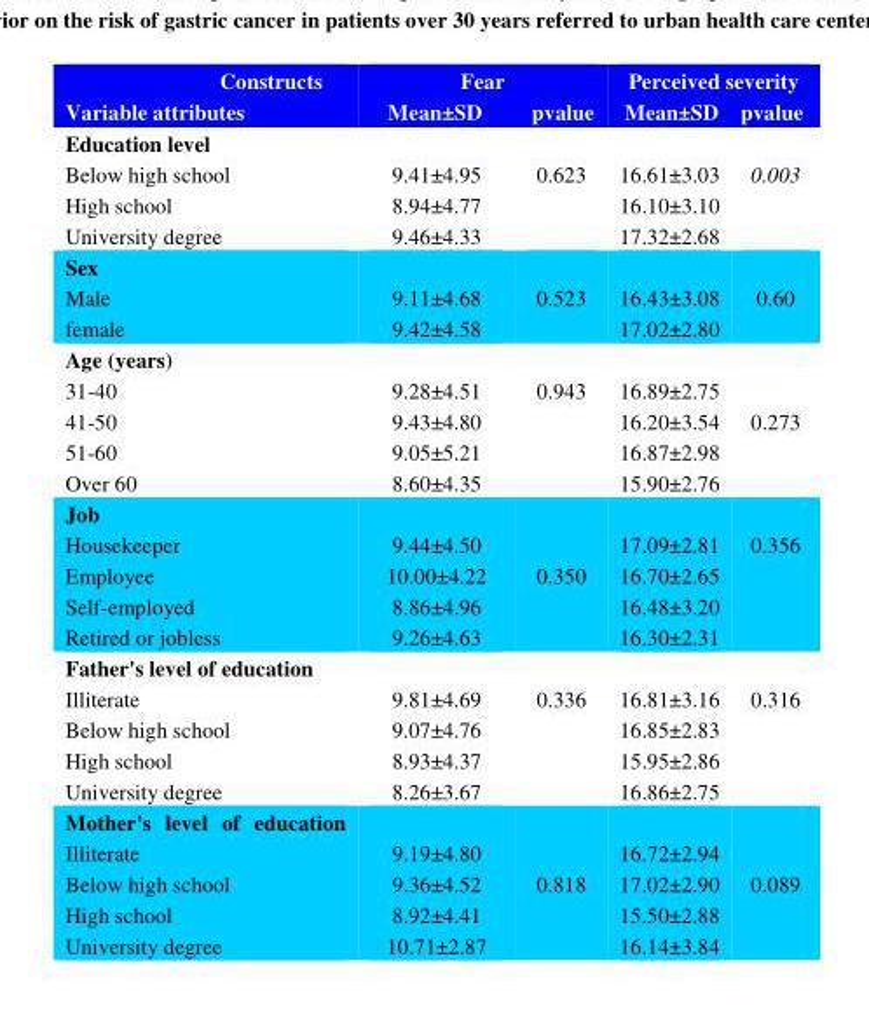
<table><thead><tr><td rowspan="2">Constructs Variable attributes Education level Below high school High school University degree</td><td colspan="2">Fear Mean±SD pvalue</td><td colspan="2">Perceived severity Mean±SD pvalue</td></tr><tr><td>9.41±4.95 8.94±4.77 9.46±4.33</td><td>0.623</td><td>16.61±3.03 16.10±3.10 17.32±2.68</td><td>0.003</td></tr></thead><tbody><tr><td>Sex Male female</td><td>9.11±4.68 9.42±4.58</td><td>0.523</td><td>16.43±3.08 17.02±2.80</td><td>0.60</td></tr><tr><td>Age (years) 31-40 41-50 51-60 Over 60</td><td>9.28±4.51 9.43±4.80 9.05±5.21 8.60±4.35</td><td>0.943</td><td>16.89±2.75 16.20±3.54 16.87±2.98 15.90±2.76</td><td>0.273</td></tr><tr><td>Job Housekeeper Employee Self-employed Retired or jobless</td><td>9.44±4.50 10.00±4.22 8.86±4.96 9.26±4.63</td><td>0.350</td><td>17.09±2.81 16.70±2.65 16.48±3.20 16.30±2.31</td><td>0.356</td></tr><tr><td>Father&#x27;s level of education Illiterate Below high school High school University degree</td><td>9.81±4.69 9.07±4.76 8.93±4.37 8.26±3.67</td><td>0.336</td><td>16.81±3.16 16.85±2.83 15.95±2.86 16.86±2.75</td><td>0.316</td></tr><tr><td>Mother&#x27;s level of education Illiterate Below high school High school University degree</td><td>9.19±4.80 9.36±4.52 8.92±4.41 10.71±2.87</td><td>0.818</td><td>16.72±2.94 17.02±2.90 15.50±2.88 16.14±3.84</td><td>0.089</td></tr></tbody></table>